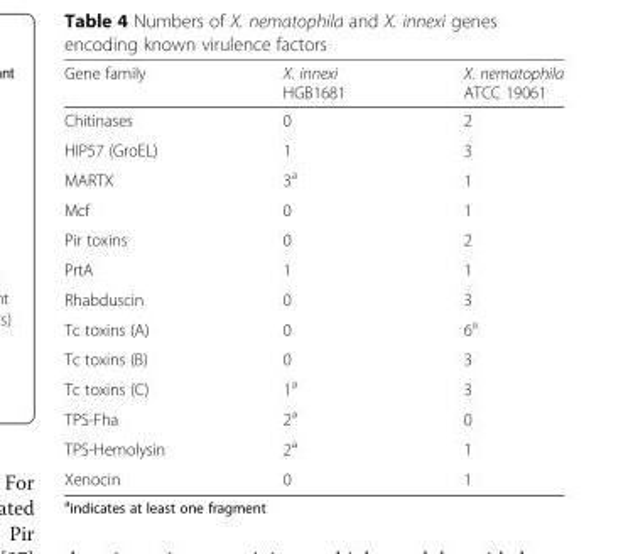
<table><thead><tr><td>Gene family</td><td>X. innexi HGB1681</td><td>X. nematophila ATCC 19061</td></tr></thead><tbody><tr><td>Chitinases</td><td>0</td><td>2</td></tr><tr><td>HIP57 (GroEL)</td><td>1</td><td>3</td></tr><tr><td>MARTX</td><td>3<sup>a</sup></td><td>1</td></tr><tr><td>Mcf</td><td>0</td><td>1</td></tr><tr><td>Pir toxins</td><td>0</td><td>2</td></tr><tr><td>PrtA</td><td>1</td><td>1</td></tr><tr><td>Rhabduscin</td><td>0</td><td>3</td></tr><tr><td>Tc toxins (A)</td><td>0</td><td>6<sup>a</sup></td></tr><tr><td>Tc toxins (B)</td><td>0</td><td>3</td></tr><tr><td>Tc toxins (C)</td><td>1<sup>a</sup></td><td>3</td></tr><tr><td>TPS-Fha</td><td>2<sup>a</sup></td><td>0</td></tr><tr><td>TPS-Hemolysin</td><td>2<sup>a</sup></td><td>1</td></tr><tr><td>Xenocin</td><td>0</td><td>1</td></tr></tbody></table>